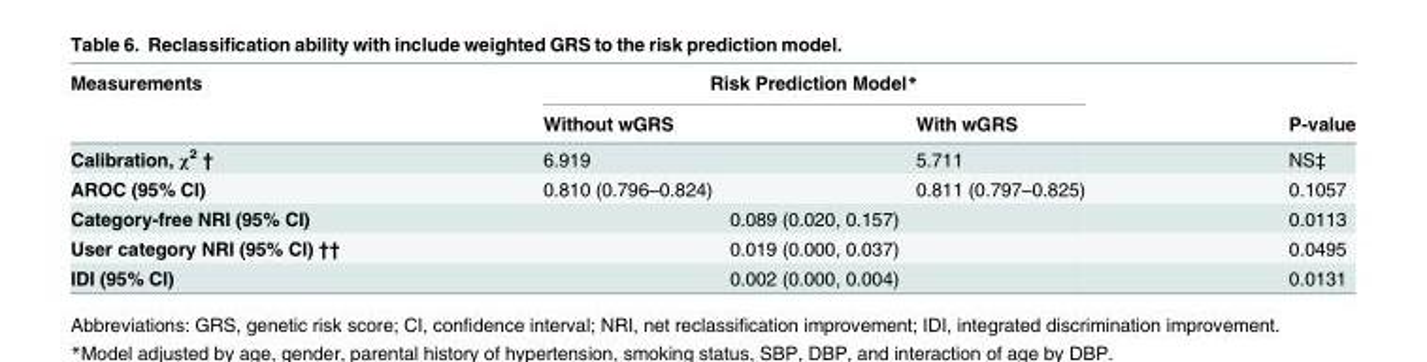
<table><thead><tr><td rowspan="2">Measurements</td><td colspan="2">Risk Prediction Model*</td><td rowspan="2">P-value</td></tr><tr><td>Without wGRS</td><td>With wGRS</td></tr></thead><tbody><tr><td>Calibration, χ<sup>2</sup> †</td><td>6.919</td><td>5.711</td><td>NS‡</td></tr><tr><td>AROC (95% CI)</td><td>0.810 (0.796–0.824)</td><td>0.811 (0.797–0.825)</td><td>0.1057</td></tr><tr><td>Category-free NRI (95% CI)</td><td colspan="2">0.089 (0.020, 0.157)</td><td>0.0113</td></tr><tr><td>User category NRI (95% CI) ††</td><td colspan="2">0.019 (0.000, 0.037)</td><td>0.0495</td></tr><tr><td>IDI (95% CI)</td><td colspan="2">0.002 (0.000, 0.004)</td><td>0.0131</td></tr></tbody></table>